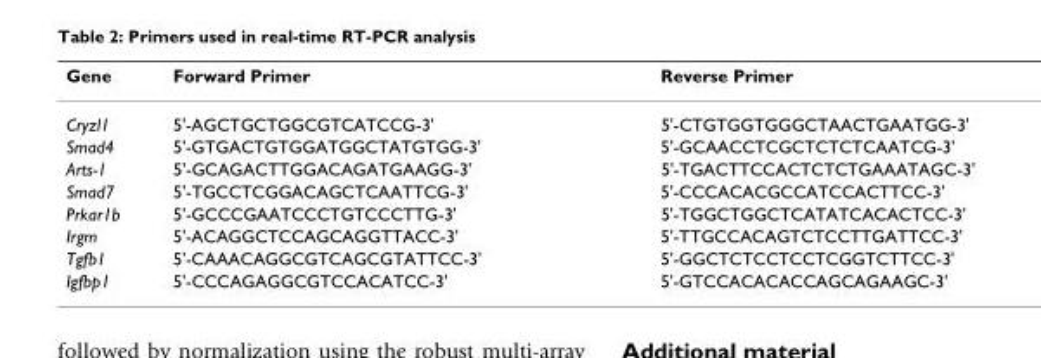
<table><thead><tr><td>Gene</td><td>Forward Primer</td><td>Reverse Primer</td></tr></thead><tbody><tr><td>Cryzl1</td><td>5&#x27;-AGCTGCTGGCGTCATCCG-3&#x27;</td><td>5&#x27;-CTGTGGTGGGCTAACTGAATGG-3&#x27;</td></tr><tr><td>Smad4</td><td>5&#x27;-GTGACTGTGGATGGCTATGTGG-3&#x27;</td><td>5&#x27;-GCAACCTCGCTCTCTCAATCG-3&#x27;</td></tr><tr><td>Arts-1</td><td>5&#x27;-GCAGACTTGGACAGATGAAGG-3&#x27;</td><td>5&#x27;-TGACTTCCACTCTCTGAAATAGC-3&#x27;</td></tr><tr><td>Smad7</td><td>5&#x27;-TGCCTCGGACAGCTCAATTCG-3&#x27;</td><td>5&#x27;-CCCACACGCCATCCACTTCC-3&#x27;</td></tr><tr><td>Prkar1b</td><td>5&#x27;-GCCCGAATCCCTGTCCCTTG-3&#x27;</td><td>5&#x27;-TGGCTGGCTCATATCACACTCC-3&#x27;</td></tr><tr><td>Irgm</td><td>5&#x27;-ACAGGCTCCAGCAGGTTACC-3&#x27;</td><td>5&#x27;-TTGCCACAGTCTCCTTGATTCC-3&#x27;</td></tr><tr><td>Tgfb1</td><td>5&#x27;-CAAACAGGCGTCAGCGTATTCC-3&#x27;</td><td>5&#x27;-GGCTCTCCTCCTCGGTCTTCC-3&#x27;</td></tr><tr><td>Igfbp1</td><td>5&#x27;-CCCAGAGGCGTCCACATCC-3&#x27;</td><td>5&#x27;-GTCCACACACCAGCAGAAGC-3&#x27;</td></tr></tbody></table>